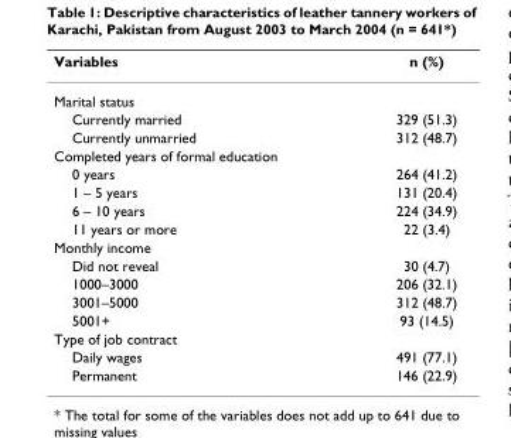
<table><thead><tr><td>Variables</td><td>n (%)</td></tr></thead><tbody><tr><td colspan="2">Marital status</td></tr><tr><td>Currently married</td><td>329 (51.3)</td></tr><tr><td>Currently unmarried</td><td>312 (48.7)</td></tr><tr><td colspan="2">Completed years of formal education</td></tr><tr><td>0 years</td><td>264 (41.2)</td></tr><tr><td>1 – 5 years</td><td>131 (20.4)</td></tr><tr><td>6 – 10 years</td><td>224 (34.9)</td></tr><tr><td>11 years or more</td><td>22 (3.4)</td></tr><tr><td colspan="2">Monthly income</td></tr><tr><td>Did not reveal</td><td>30 (4.7)</td></tr><tr><td>1000–3000</td><td>206 (32.1)</td></tr><tr><td>3001–5000</td><td>312 (48.7)</td></tr><tr><td>5001+</td><td>93 (14.5)</td></tr><tr><td colspan="2">Type of job contract</td></tr><tr><td>Daily wages</td><td>491 (77.1)</td></tr><tr><td>Permanent</td><td>146 (22.9)</td></tr></tbody></table>